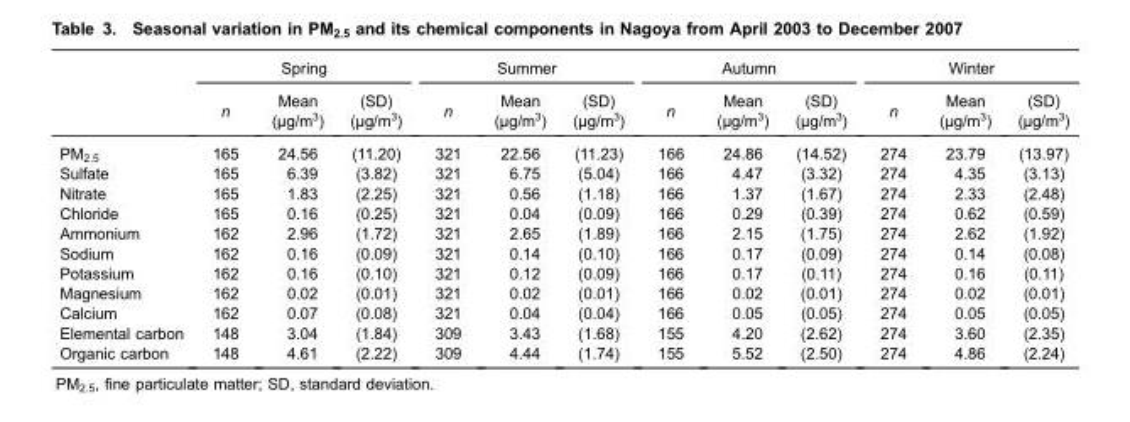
<table><thead><tr><td rowspan="2"></td><td colspan="3">Spring</td><td colspan="3">Summer</td><td colspan="3">Autumn</td><td colspan="3">Winter</td></tr><tr><td>n</td><td>Mean (µg/m<sup>3</sup>)</td><td>(SD) (µg/m<sup>3</sup>)</td><td>n</td><td>Mean (µg/m<sup>3</sup>)</td><td>(SD) (µg/m<sup>3</sup>)</td><td>n</td><td>Mean (µg/m<sup>3</sup>)</td><td>(SD) (µg/m<sup>3</sup>)</td><td>n</td><td>Mean (µg/m<sup>3</sup>)</td><td>(SD) (µg/m<sup>3</sup>)</td></tr></thead><tbody><tr><td>PM<sub>2.5</sub></td><td>165</td><td>24.56</td><td>(11.20)</td><td>321</td><td>22.56</td><td>(11.23)</td><td>166</td><td>24.86</td><td>(14.52)</td><td>274</td><td>23.79</td><td>(13.97)</td></tr><tr><td>Sulfate</td><td>165</td><td>6.39</td><td>(3.82)</td><td>321</td><td>6.75</td><td>(5.04)</td><td>166</td><td>4.47</td><td>(3.32)</td><td>274</td><td>4.35</td><td>(3.13)</td></tr><tr><td>Nitrate</td><td>165</td><td>1.83</td><td>(2.25)</td><td>321</td><td>0.56</td><td>(1.18)</td><td>166</td><td>1.37</td><td>(1.67)</td><td>274</td><td>2.33</td><td>(2.48)</td></tr><tr><td>Chloride</td><td>165</td><td>0.16</td><td>(0.25)</td><td>321</td><td>0.04</td><td>(0.09)</td><td>166</td><td>0.29</td><td>(0.39)</td><td>274</td><td>0.62</td><td>(0.59)</td></tr><tr><td>Ammonium</td><td>162</td><td>2.96</td><td>(1.72)</td><td>321</td><td>2.65</td><td>(1.89)</td><td>166</td><td>2.15</td><td>(1.75)</td><td>274</td><td>2.62</td><td>(1.92)</td></tr><tr><td>Sodium</td><td>162</td><td>0.16</td><td>(0.09)</td><td>321</td><td>0.14</td><td>(0.10)</td><td>166</td><td>0.17</td><td>(0.09)</td><td>274</td><td>0.14</td><td>(0.08)</td></tr><tr><td>Potassium</td><td>162</td><td>0.16</td><td>(0.10)</td><td>321</td><td>0.12</td><td>(0.09)</td><td>166</td><td>0.17</td><td>(0.11)</td><td>274</td><td>0.16</td><td>(0.11)</td></tr><tr><td>Magnesium</td><td>162</td><td>0.02</td><td>(0.01)</td><td>321</td><td>0.02</td><td>(0.01)</td><td>166</td><td>0.02</td><td>(0.01)</td><td>274</td><td>0.02</td><td>(0.01)</td></tr><tr><td>Calcium</td><td>162</td><td>0.07</td><td>(0.08)</td><td>321</td><td>0.04</td><td>(0.04)</td><td>166</td><td>0.05</td><td>(0.05)</td><td>274</td><td>0.05</td><td>(0.05)</td></tr><tr><td>Elemental carbon</td><td>148</td><td>3.04</td><td>(1.84)</td><td>309</td><td>3.43</td><td>(1.68)</td><td>155</td><td>4.20</td><td>(2.62)</td><td>274</td><td>3.60</td><td>(2.35)</td></tr><tr><td>Organic carbon</td><td>148</td><td>4.61</td><td>(2.22)</td><td>309</td><td>4.44</td><td>(1.74)</td><td>155</td><td>5.52</td><td>(2.50)</td><td>274</td><td>4.86</td><td>(2.24)</td></tr></tbody></table>